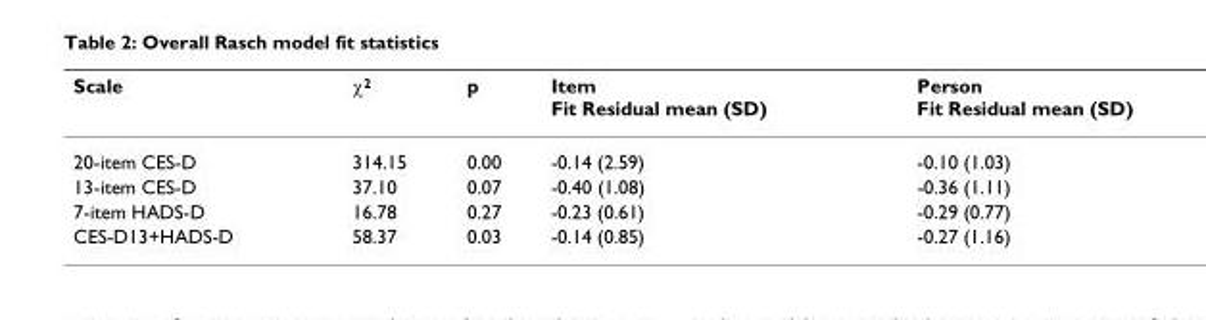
<table><thead><tr><td>Scale</td><td>χ<sup>2</sup></td><td>p</td><td>Item Fit Residual mean (SD)</td><td>Person Fit Residual mean (SD)</td></tr></thead><tbody><tr><td>20-item CES-D</td><td>314.15</td><td>0.00</td><td>-0.14 (2.59)</td><td>-0.10 (1.03)</td></tr><tr><td>13-item CES-D</td><td>37.10</td><td>0.07</td><td>-0.40 (1.08)</td><td>-0.36 (1.11)</td></tr><tr><td>7-item HADS-D</td><td>16.78</td><td>0.27</td><td>-0.23 (0.61)</td><td>-0.29 (0.77)</td></tr><tr><td>CES-D13+HADS-D</td><td>58.37</td><td>0.03</td><td>-0.14 (0.85)</td><td>-0.27 (1.16)</td></tr></tbody></table>